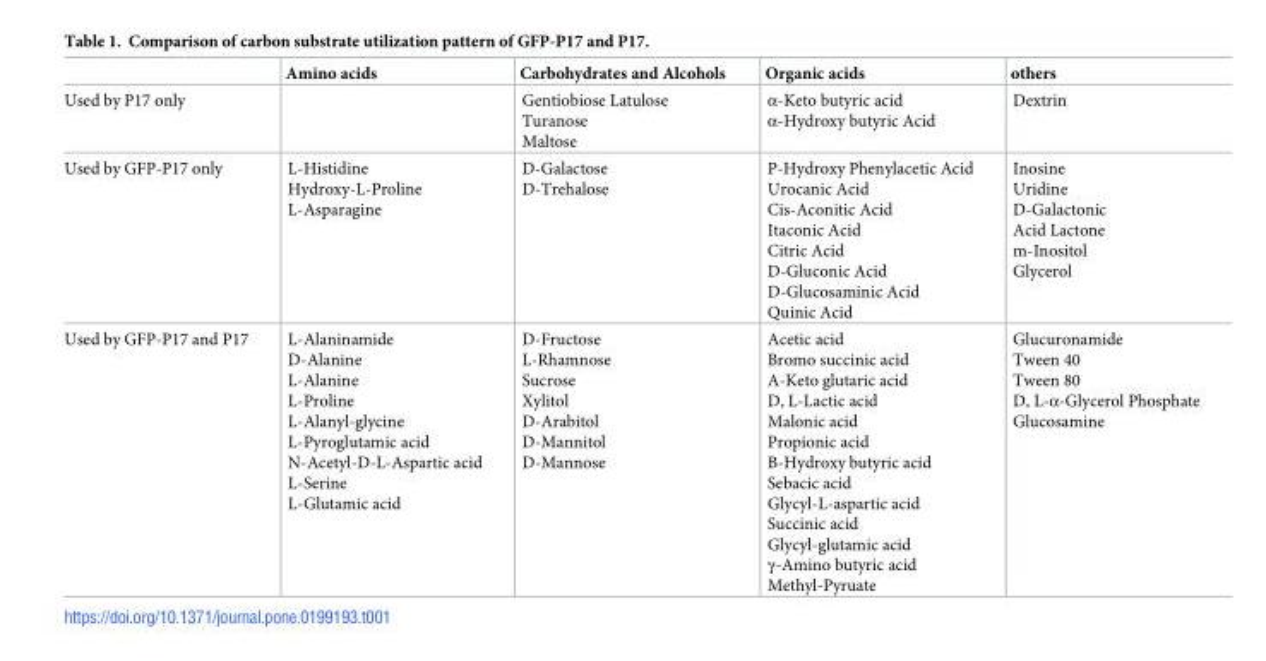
<table><thead><tr><td></td><td>Amino acids</td><td>Carbohydrates and Alcohols</td><td>Organic acids</td><td>others</td></tr></thead><tbody><tr><td>Used by P17 only</td><td></td><td>Gentiobiose Latulose Turanose Maltose</td><td>α-Keto butyric acid α-Hydroxy butyric Acid</td><td>Dextrin</td></tr><tr><td>Used by GFP-P17 only</td><td>L-Histidine Hydroxy-L-Proline L-Asparagine</td><td>D-Galactose D-Trehalose</td><td>P-Hydroxy Phenylacetic Acid Urocanic Acid Cis-Aconitic Acid Itaconic Acid Citric Acid D-Gluconic Acid D-Glucosaminic Acid Quinic Acid</td><td>Inosine Uridine D-Galactonic Acid Lactone m-Inositol Glycerol</td></tr><tr><td>Used by GFP-P17 and P17</td><td>L-Alaninamide D-Alanine L-Alanine L-Proline L-Alanyl-glycine L-Pyroglutamic acid N-Acetyl-D-L-Aspartic acid L-Serine L-Glutamic acid</td><td>D-Fructose L-Rhamnose Sucrose Xylitol D-Arabitol D-Mannitol D-Mannose</td><td>Acetic acid Bromo succinic acid Α-Keto glutaric acid D, L-Lactic acid Malonic acid Propionic acid Β-Hydroxy butyric acid Sebacic acid Glycyl-L-aspartic acid Succinic acid Glycyl-glutamic acid γ-Amino butyric acid Methyl-Pyruate</td><td>Glucuronamide Tween 40 Tween 80 D, L-α-Glycerol Phosphate Glucosamine</td></tr></tbody></table>